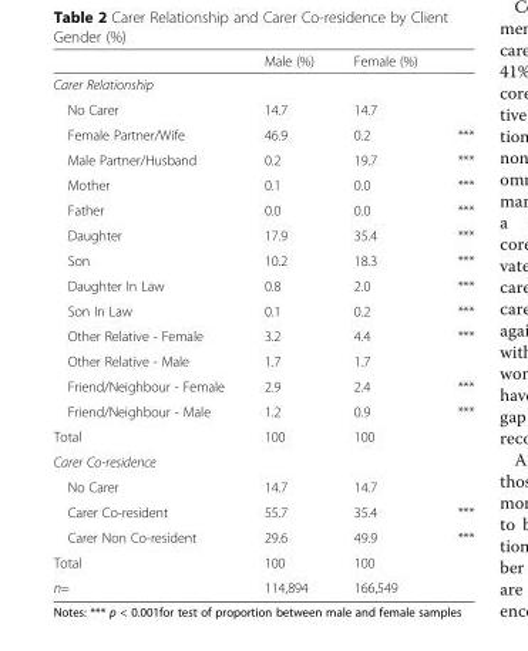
<table><thead><tr><td></td><td>Male (%)</td><td>Female (%)</td><td></td></tr></thead><tbody><tr><td colspan="4">Carer Relationship</td></tr><tr><td>No Carer</td><td>14.7</td><td>14.7</td><td></td></tr><tr><td>Female Partner/Wife</td><td>46.9</td><td>0.2</td><td>***</td></tr><tr><td>Male Partner/Husband</td><td>0.2</td><td>19.7</td><td>***</td></tr><tr><td>Mother</td><td>0.1</td><td>0.0</td><td>***</td></tr><tr><td>Father</td><td>0.0</td><td>0.0</td><td>***</td></tr><tr><td>Daughter</td><td>17.9</td><td>35.4</td><td>***</td></tr><tr><td>Son</td><td>10.2</td><td>18.3</td><td>***</td></tr><tr><td>Daughter In Law</td><td>0.8</td><td>2.0</td><td>***</td></tr><tr><td>Son In Law</td><td>0.1</td><td>0.2</td><td>***</td></tr><tr><td>Other Relative - Female</td><td>3.2</td><td>4.4</td><td>***</td></tr><tr><td>Other Relative - Male</td><td>1.7</td><td>1.7</td><td></td></tr><tr><td>Friend/Neighbour - Female</td><td>2.9</td><td>2.4</td><td>***</td></tr><tr><td>Friend/Neighbour - Male</td><td>1.2</td><td>0.9</td><td>***</td></tr><tr><td>Total</td><td>100</td><td>100</td><td></td></tr><tr><td colspan="4">Carer Co-residence</td></tr><tr><td>No Carer</td><td>14.7</td><td>14.7</td><td></td></tr><tr><td>Carer Co-resident</td><td>55.7</td><td>35.4</td><td>***</td></tr><tr><td>Carer Non Co-resident</td><td>29.6</td><td>49.9</td><td>***</td></tr><tr><td>Total</td><td>100</td><td>100</td><td></td></tr><tr><td>n=</td><td>114,894</td><td>166,549</td><td></td></tr></tbody></table>